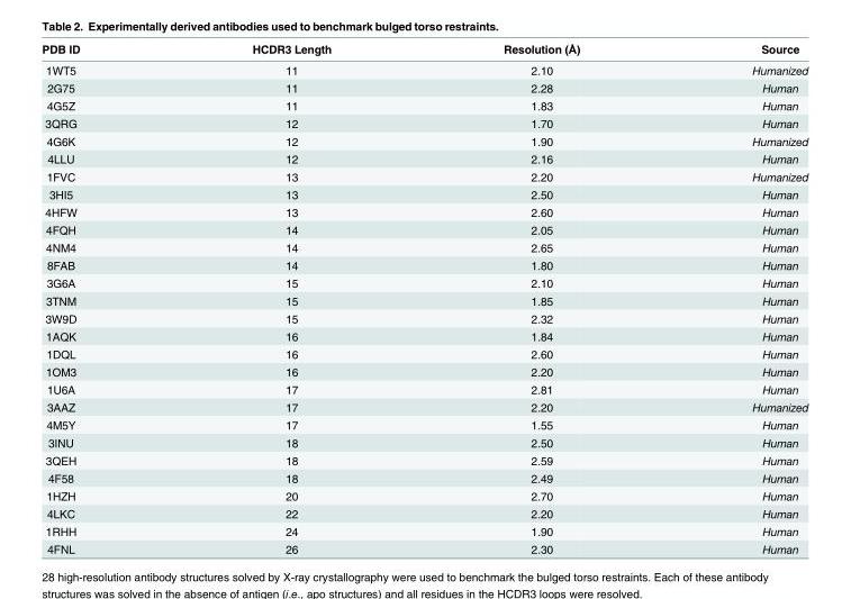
<table><thead><tr><td>PDB ID</td><td>HCDR3 Length</td><td>Resolution (Å)</td><td>Source</td></tr></thead><tbody><tr><td>1WT5</td><td>11</td><td>2.10</td><td>Humanized</td></tr><tr><td>2G75</td><td>11</td><td>2.28</td><td>Human</td></tr><tr><td>4G5Z</td><td>11</td><td>1.83</td><td>Human</td></tr><tr><td>3QRG</td><td>12</td><td>1.70</td><td>Human</td></tr><tr><td>4G6K</td><td>12</td><td>1.90</td><td>Humanized</td></tr><tr><td>4LLU</td><td>12</td><td>2.16</td><td>Human</td></tr><tr><td>1FVC</td><td>13</td><td>2.20</td><td>Humanized</td></tr><tr><td>3HI5</td><td>13</td><td>2.50</td><td>Human</td></tr><tr><td>4HFW</td><td>13</td><td>2.60</td><td>Human</td></tr><tr><td>4FQH</td><td>14</td><td>2.05</td><td>Human</td></tr><tr><td>4NM4</td><td>14</td><td>2.65</td><td>Human</td></tr><tr><td>8FAB</td><td>14</td><td>1.80</td><td>Human</td></tr><tr><td>3G6A</td><td>15</td><td>2.10</td><td>Human</td></tr><tr><td>3TNM</td><td>15</td><td>1.85</td><td>Human</td></tr><tr><td>3W9D</td><td>15</td><td>2.32</td><td>Human</td></tr><tr><td>1AQK</td><td>16</td><td>1.84</td><td>Human</td></tr><tr><td>1DQL</td><td>16</td><td>2.60</td><td>Human</td></tr><tr><td>1OM3</td><td>16</td><td>2.20</td><td>Human</td></tr><tr><td>1U6A</td><td>17</td><td>2.81</td><td>Human</td></tr><tr><td>3AAZ</td><td>17</td><td>2.20</td><td>Humanized</td></tr><tr><td>4M5Y</td><td>17</td><td>1.55</td><td>Human</td></tr><tr><td>3INU</td><td>18</td><td>2.50</td><td>Human</td></tr><tr><td>3QEH</td><td>18</td><td>2.59</td><td>Human</td></tr><tr><td>4F58</td><td>18</td><td>2.49</td><td>Human</td></tr><tr><td>1HZH</td><td>20</td><td>2.70</td><td>Human</td></tr><tr><td>4LKC</td><td>22</td><td>2.20</td><td>Human</td></tr><tr><td>1RHH</td><td>24</td><td>1.90</td><td>Human</td></tr><tr><td>4FNL</td><td>26</td><td>2.30</td><td>Human</td></tr></tbody></table>